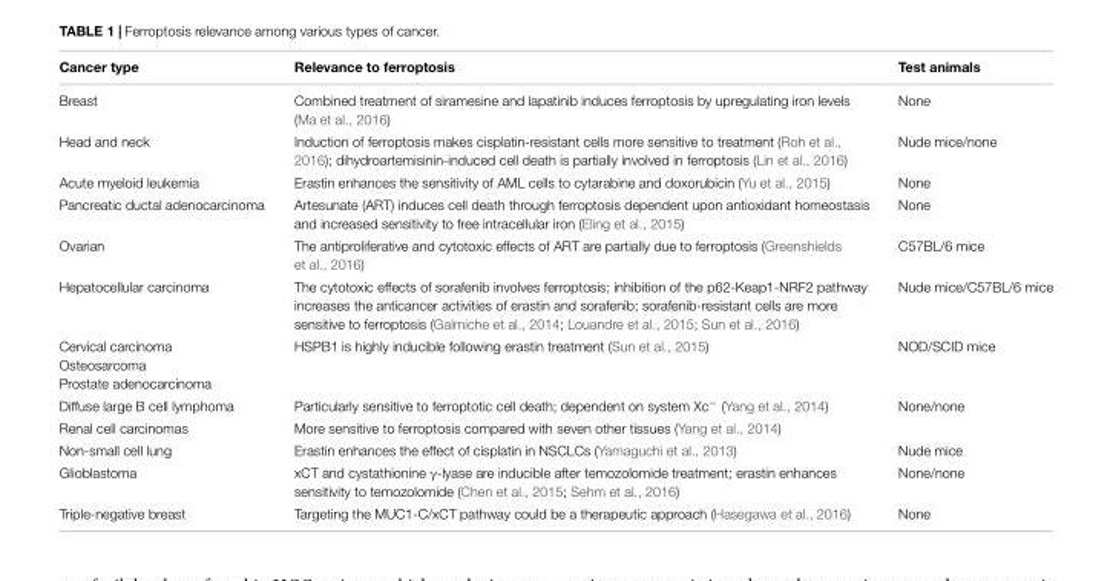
<table><thead><tr><td>Cancer type</td><td>Relevance to ferroptosis</td><td>Test animals</td></tr></thead><tbody><tr><td>Breast</td><td>Combined treatment of siramesine and lapatinib induces ferroptosis by upregulating iron levels (Ma et al., 2016)</td><td>None</td></tr><tr><td>Head and neck</td><td>Induction of ferroptosis makes cisplatin-resistant cells more sensitive to treatment (Roh et al., 2016); dihydroartemisinin-induced cell death is partially involved in ferroptosis (Lin et al., 2016)</td><td>Nude mice/none</td></tr><tr><td>Acute myeloid leukemia</td><td>Erastin enhances the sensitivity of AML cells to cytarabine and doxorubicin (Yu et al., 2015)</td><td>None</td></tr><tr><td>Pancreatic ductal adenocarcinoma</td><td>Artesunate (ART) induces cell death through ferroptosis dependent upon antioxidant homeostasis and increased sensitivity to free intracellular iron (Eling et al., 2015)</td><td>None</td></tr><tr><td>Ovarian</td><td>The antiproliferative and cytotoxic effects of ART are partially due to ferroptosis (Greenshields et al., 2016)</td><td>C57BL/6 mice</td></tr><tr><td>Hepatocellular carcinoma</td><td>The cytotoxic effects of sorafenib involves ferroptosis; inhibition of the p62-Keap1-NRF2 pathway increases the anticancer activities of erastin and sorafenib; sorafenib-resistant cells are more sensitive to ferroptosis (Galmiche et al., 2014; Louandre et al., 2015; Sun et al., 2016)</td><td>Nude mice/C57BL/6 mice</td></tr><tr><td>Cervical carcinoma Osteosarcoma Prostate adenocarcinoma</td><td>HSPB1 is highly inducible following erastin treatment (Sun et al., 2015)</td><td>NOD/SCID mice</td></tr><tr><td>Diffuse large B cell lymphoma</td><td>Particularly sensitive to ferroptotic cell death; dependent on system Xc<sup>−</sup> (Yang et al., 2014)</td><td>None/none</td></tr><tr><td>Renal cell carcinomas</td><td>More sensitive to ferroptosis compared with seven other tissues (Yang et al., 2014)</td><td></td></tr><tr><td>Non-small cell lung</td><td>Erastin enhances the effect of cisplatin in NSCLCs (Yamaguchi et al., 2013)</td><td>Nude mice</td></tr><tr><td>Glioblastoma</td><td>xCT and cystathionine γ-lyase are inducible after temozolomide treatment; erastin enhances sensitivity to temozolomide (Chen et al., 2015; Sehm et al., 2016)</td><td>None/none</td></tr><tr><td>Triple-negative breast</td><td>Targeting the MUC1-C/xCT pathway could be a therapeutic approach (Hasegawa et al., 2016)</td><td>None</td></tr></tbody></table>